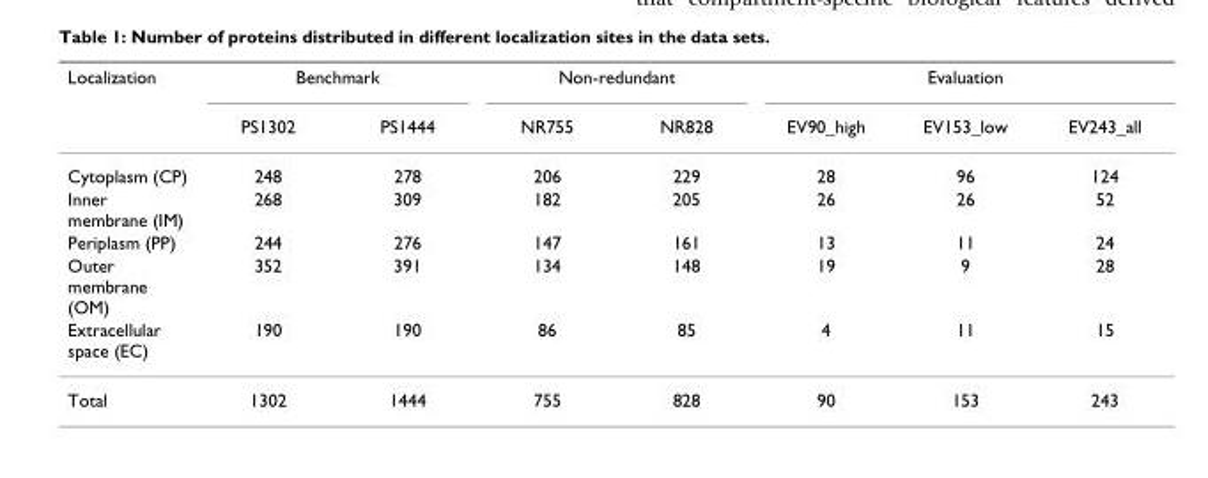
<table><thead><tr><td rowspan="2">Localization</td><td colspan="2">Benchmark</td><td colspan="2">Non-redundant</td><td colspan="3">Evaluation</td></tr><tr><td>PS1302</td><td>PS1444</td><td>NR755</td><td>NR828</td><td>EV90_high</td><td>EV153_low</td><td>EV243_all</td></tr></thead><tbody><tr><td>Cytoplasm (CP)</td><td>248</td><td>278</td><td>206</td><td>229</td><td>28</td><td>96</td><td>124</td></tr><tr><td>Inner membrane (IM)</td><td>268</td><td>309</td><td>182</td><td>205</td><td>26</td><td>26</td><td>52</td></tr><tr><td>Periplasm (PP)</td><td>244</td><td>276</td><td>147</td><td>161</td><td>13</td><td>11</td><td>24</td></tr><tr><td>Outer membrane (OM)</td><td>352</td><td>391</td><td>134</td><td>148</td><td>19</td><td>9</td><td>28</td></tr><tr><td>Extracellular space (EC)</td><td>190</td><td>190</td><td>86</td><td>85</td><td>4</td><td>11</td><td>15</td></tr><tr><td>Total</td><td>1302</td><td>1444</td><td>755</td><td>828</td><td>90</td><td>153</td><td>243</td></tr></tbody></table>